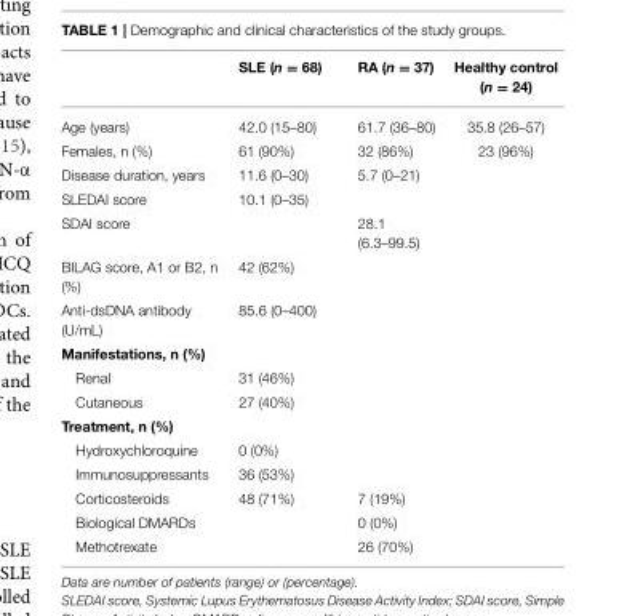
<table><thead><tr><td></td><td>SLE (n = 68)</td><td>RA (n = 37)</td><td>Healthy control (n = 24)</td></tr></thead><tbody><tr><td>Age (years)</td><td>42.0 (15–80)</td><td>61.7 (36–80)</td><td>35.8 (26–57)</td></tr><tr><td>Females, n (%)</td><td>61 (90%)</td><td>32 (86%)</td><td>23 (96%)</td></tr><tr><td>Disease duration, years</td><td>11.6 (0–30)</td><td>5.7 (0–21)</td><td></td></tr><tr><td>SLEDAI score</td><td>10.1 (0–35)</td><td></td><td></td></tr><tr><td>SDAI score</td><td></td><td>28.1 (6.3–99.5)</td><td></td></tr><tr><td>BILAG score, A1 or B2, n (%)</td><td>42 (62%)</td><td></td><td></td></tr><tr><td>Anti-dsDNA antibody (U/mL)</td><td>85.6 (0–400)</td><td></td><td></td></tr><tr><td colspan="4">Manifestations, n (%)</td></tr><tr><td>Renal</td><td>31 (46%)</td><td></td><td></td></tr><tr><td>Cutaneous</td><td>27 (40%)</td><td></td><td></td></tr><tr><td colspan="4">Treatment, n (%)</td></tr><tr><td>Hydroxychloroquine</td><td>0 (0%)</td><td></td><td></td></tr><tr><td>Immunosuppressants</td><td>36 (53%)</td><td></td><td></td></tr><tr><td>Corticosteroids</td><td>48 (71%)</td><td>7 (19%)</td><td></td></tr><tr><td>Biological DMARDs</td><td></td><td>0 (0%)</td><td></td></tr><tr><td>Methotrexate</td><td></td><td>26 (70%)</td><td></td></tr></tbody></table>